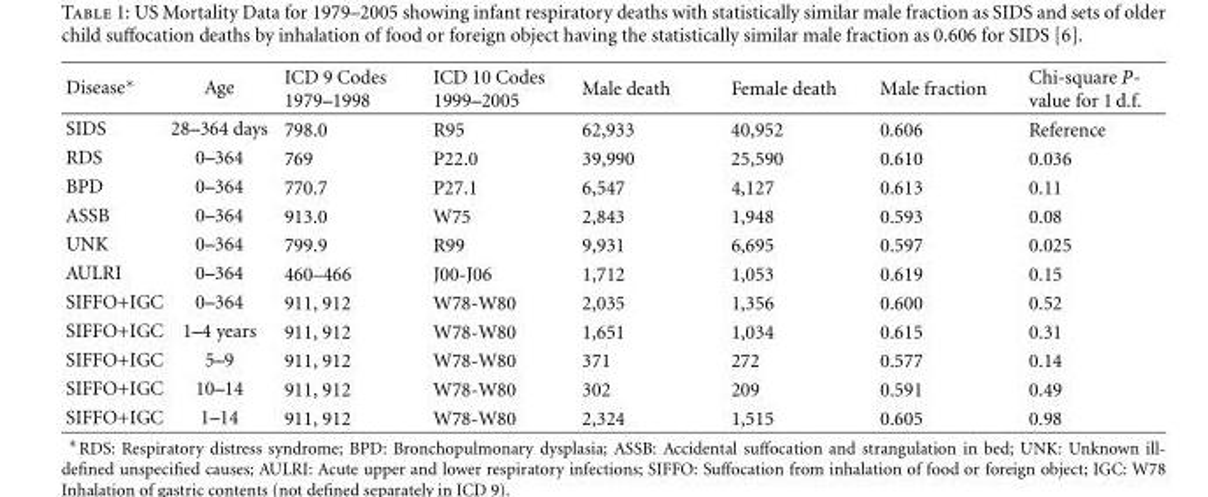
<table><thead><tr><td>Disease∗</td><td>Age</td><td>ICD 9 Codes 1979–1998</td><td>ICD 10 Codes 1999–2005</td><td>Male death</td><td>Female death</td><td>Male fraction</td><td>Chi-square P- value for 1 d.f.</td></tr></thead><tbody><tr><td>SIDS</td><td>28–364 days</td><td>798.0</td><td>R95</td><td>62,933</td><td>40,952</td><td>0.606</td><td>Reference</td></tr><tr><td>RDS</td><td>0–364</td><td>769</td><td>P22.0</td><td>39,990</td><td>25,590</td><td>0.610</td><td>0.036</td></tr><tr><td>BPD</td><td>0–364</td><td>770.7</td><td>P27.1</td><td>6,547</td><td>4,127</td><td>0.613</td><td>0.11</td></tr><tr><td>ASSB</td><td>0–364</td><td>913.0</td><td>W75</td><td>2,843</td><td>1,948</td><td>0.593</td><td>0.08</td></tr><tr><td>UNK</td><td>0–364</td><td>799.9</td><td>R99</td><td>9,931</td><td>6,695</td><td>0.597</td><td>0.025</td></tr><tr><td>AULRI</td><td>0–364</td><td>460–466</td><td>J00-J06</td><td>1,712</td><td>1,053</td><td>0.619</td><td>0.15</td></tr><tr><td>SIFFO+IGC</td><td>0–364</td><td>911, 912</td><td>W78-W80</td><td>2,035</td><td>1,356</td><td>0.600</td><td>0.52</td></tr><tr><td>SIFFO+IGC</td><td>1–4 years</td><td>911, 912</td><td>W78-W80</td><td>1,651</td><td>1,034</td><td>0.615</td><td>0.31</td></tr><tr><td>SIFFO+IGC</td><td>5–9</td><td>911, 912</td><td>W78-W80</td><td>371</td><td>272</td><td>0.577</td><td>0.14</td></tr><tr><td>SIFFO+IGC</td><td>10–14</td><td>911, 912</td><td>W78-W80</td><td>302</td><td>209</td><td>0.591</td><td>0.49</td></tr><tr><td>SIFFO+IGC</td><td>1–14</td><td>911, 912</td><td>W78-W80</td><td>2,324</td><td>1,515</td><td>0.605</td><td>0.98</td></tr></tbody></table>